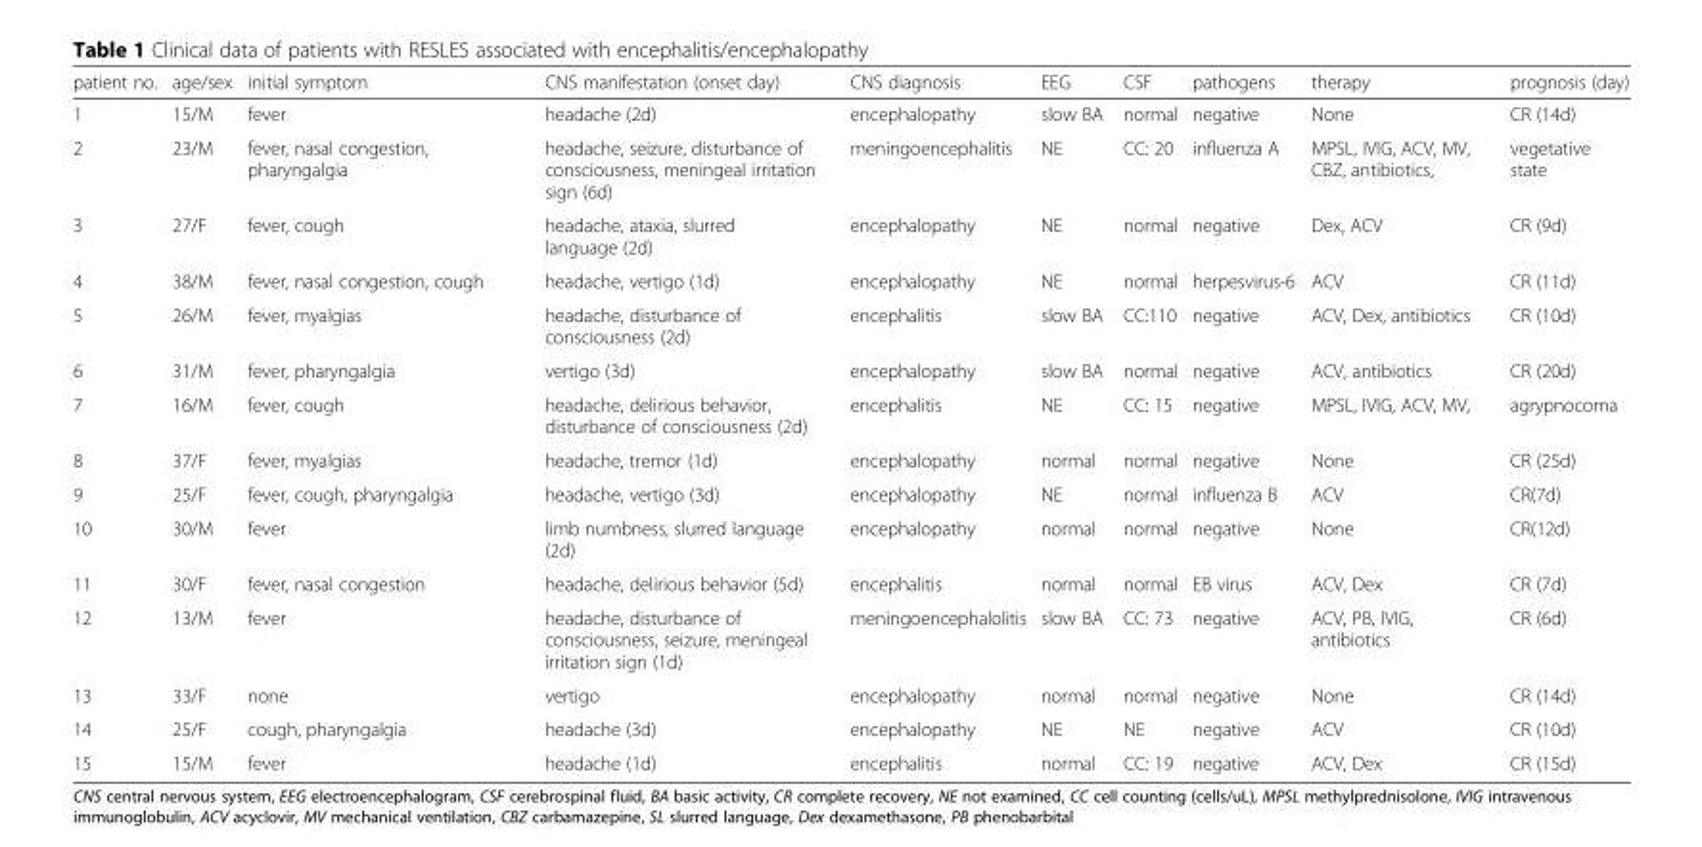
<table><thead><tr><td>patient no.</td><td>age/sex</td><td>initial symptom</td><td>CNS manifestation (onset day)</td><td>CNS diagnosis</td><td>EEG</td><td>CSF</td><td>pathogens</td><td>therapy</td><td>prognosis (day)</td></tr></thead><tbody><tr><td>1</td><td>15/M</td><td>fever</td><td>headache (2d)</td><td>encephalopathy</td><td>slow BA</td><td>normal</td><td>negative</td><td>None</td><td>CR (14d)</td></tr><tr><td>2</td><td>23/M</td><td>fever, nasal congestion, pharyngalgia</td><td>headache, seizure, disturbance of consciousness, meningeal irritation sign (6d)</td><td>meningoencephalitis</td><td>NE</td><td>CC: 20</td><td>influenza A</td><td>MPSL, IVIG, ACV, MV, CBZ, antibiotics,</td><td>vegetative state</td></tr><tr><td>3</td><td>27/F</td><td>fever, cough</td><td>headache, ataxia, slurred language (2d)</td><td>encephalopathy</td><td>NE</td><td>normal</td><td>negative</td><td>Dex, ACV</td><td>CR (9d)</td></tr><tr><td>4</td><td>38/M</td><td>fever, nasal congestion, cough</td><td>headache, vertigo (1d)</td><td>encephalopathy</td><td>NE</td><td>normal</td><td>herpesvirus-6</td><td>ACV</td><td>CR (11d)</td></tr><tr><td>5</td><td>26/M</td><td>fever, myalgias</td><td>headache, disturbance of consciousness (2d)</td><td>encephalitis</td><td>slow BA</td><td>CC:110</td><td>negative</td><td>ACV, Dex, antibiotics</td><td>CR (10d)</td></tr><tr><td>6</td><td>31/M</td><td>fever, pharyngalgia</td><td>vertigo (3d)</td><td>encephalopathy</td><td>slow BA</td><td>normal</td><td>negative</td><td>ACV, antibiotics</td><td>CR (20d)</td></tr><tr><td>7</td><td>16/M</td><td>fever, cough</td><td>headache, delirious behavior, disturbance of consciousness (2d)</td><td>encephalitis</td><td>NE</td><td>CC: 15</td><td>negative</td><td>MPSL, IVIG, ACV, MV,</td><td>agrypnocoma</td></tr><tr><td>8</td><td>37/F</td><td>fever, myalgias</td><td>headache, tremor (1d)</td><td>encephalopathy</td><td>normal</td><td>normal</td><td>negative</td><td>None</td><td>CR (25d)</td></tr><tr><td>9</td><td>25/F</td><td>fever, cough, pharyngalgia</td><td>headache, vertigo (3d)</td><td>encephalopathy</td><td>NE</td><td>normal</td><td>influenza B</td><td>ACV</td><td>CR(7d)</td></tr><tr><td>10</td><td>30/M</td><td>fever</td><td>limb numbness, slurred language (2d)</td><td>encephalopathy</td><td>normal</td><td>normal</td><td>negative</td><td>None</td><td>CR(12d)</td></tr><tr><td>11</td><td>30/F</td><td>fever, nasal congestion</td><td>headache, delirious behavior (5d)</td><td>encephalitis</td><td>normal</td><td>normal</td><td>EB virus</td><td>ACV, Dex</td><td>CR (7d)</td></tr><tr><td>12</td><td>13/M</td><td>fever</td><td>headache, disturbance of consciousness, seizure, meningeal irritation sign (1d)</td><td>meningoencephalolitis</td><td>slow BA</td><td>CC: 73</td><td>negative</td><td>ACV, PB, IVIG, antibiotics</td><td>CR (6d)</td></tr><tr><td>13</td><td>33/F</td><td>none</td><td>vertigo</td><td>encephalopathy</td><td>normal</td><td>normal</td><td>negative</td><td>None</td><td>CR (14d)</td></tr><tr><td>14</td><td>25/F</td><td>cough, pharyngalgia</td><td>headache (3d)</td><td>encephalopathy</td><td>NE</td><td>NE</td><td>negative</td><td>ACV</td><td>CR (10d)</td></tr><tr><td>15</td><td>15/M</td><td>fever</td><td>headache (1d)</td><td>encephalitis</td><td>normal</td><td>CC: 19</td><td>negative</td><td>ACV, Dex</td><td>CR (15d)</td></tr></tbody></table>